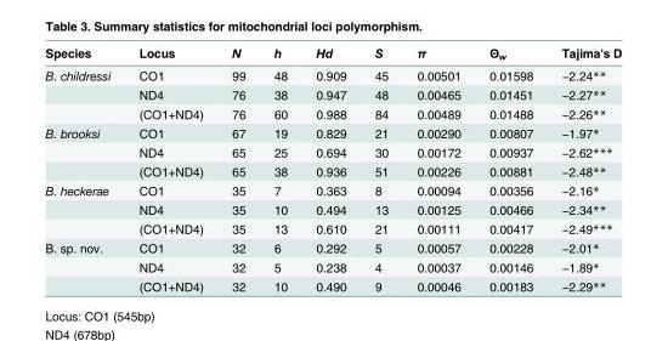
<table><thead><tr><td>Species</td><td>Locus</td><td>N</td><td>h</td><td>Hd</td><td>S</td><td>π</td><td>Θ<sub>w</sub></td><td>Tajima&#x27;s D</td></tr></thead><tbody><tr><td rowspan="3">B. childressi</td><td>CO1</td><td>99</td><td>48</td><td>0.909</td><td>45</td><td>0.00501</td><td>0.01598</td><td>−2.24**</td></tr><tr><td>ND4</td><td>76</td><td>38</td><td>0.947</td><td>48</td><td>0.00465</td><td>0.01451</td><td>−2.27**</td></tr><tr><td>(CO1+ND4)</td><td>76</td><td>60</td><td>0.988</td><td>84</td><td>0.00489</td><td>0.01488</td><td>−2.26**</td></tr><tr><td rowspan="3">B. brooksi</td><td>CO1</td><td>67</td><td>19</td><td>0.829</td><td>21</td><td>0.00290</td><td>0.00807</td><td>−1.97*</td></tr><tr><td>ND4</td><td>65</td><td>25</td><td>0.694</td><td>30</td><td>0.00172</td><td>0.00937</td><td>−2.62***</td></tr><tr><td>(CO1+ND4)</td><td>65</td><td>38</td><td>0.936</td><td>51</td><td>0.00226</td><td>0.00881</td><td>−2.48**</td></tr><tr><td rowspan="3">B. heckerae</td><td>CO1</td><td>35</td><td>7</td><td>0.363</td><td>8</td><td>0.00094</td><td>0.00356</td><td>−2.16*</td></tr><tr><td>ND4</td><td>35</td><td>10</td><td>0.494</td><td>13</td><td>0.00125</td><td>0.00466</td><td>−2.34**</td></tr><tr><td>(CO1+ND4)</td><td>35</td><td>13</td><td>0.610</td><td>21</td><td>0.00111</td><td>0.00417</td><td>−2.49***</td></tr><tr><td rowspan="3">B. sp. nov.</td><td>CO1</td><td>32</td><td>6</td><td>0.292</td><td>5</td><td>0.00057</td><td>0.00228</td><td>−2.01*</td></tr><tr><td>ND4</td><td>32</td><td>5</td><td>0.238</td><td>4</td><td>0.00037</td><td>0.00146</td><td>−1.89*</td></tr><tr><td>(CO1+ND4)</td><td>32</td><td>10</td><td>0.490</td><td>9</td><td>0.00046</td><td>0.00183</td><td>−2.29**</td></tr></tbody></table>